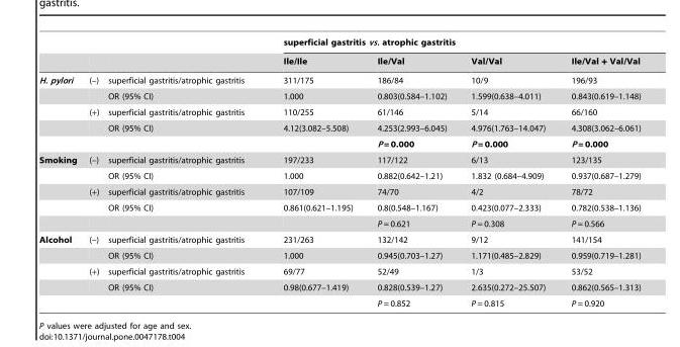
<table><thead><tr><td rowspan="2"></td><td rowspan="2"></td><td rowspan="2"></td><td colspan="4">superficial gastritis vs. atrophic gastritis</td></tr><tr><td>Ile/Ile</td><td>Ile/Val</td><td>Val/Val</td><td>Ile/Val + Val/Val</td></tr></thead><tbody><tr><td rowspan="5">H. pylori</td><td>(–)</td><td>superficial gastritis/atrophic gastritis</td><td>311/175</td><td>186/84</td><td>10/9</td><td>196/93</td></tr><tr><td></td><td>OR (95% CI)</td><td>1.000</td><td>0.803(0.584–1.102)</td><td>1.599(0.638–4.011)</td><td>0.843(0.619–1.148)</td></tr><tr><td>(+)</td><td>superficial gastritis/atrophic gastritis</td><td>110/255</td><td>61/146</td><td>5/14</td><td>66/160</td></tr><tr><td></td><td>OR (95% CI)</td><td>4.12(3.082–5.508)</td><td>4.253(2.993–6.045)</td><td>4.976(1.763–14.047)</td><td>4.308(3.062–6.061)</td></tr><tr><td></td><td></td><td></td><td>P = 0.000</td><td>P = 0.000</td><td>P = 0.000</td></tr><tr><td rowspan="5">Smoking</td><td>(–)</td><td>superficial gastritis/atrophic gastritis</td><td>197/233</td><td>117/122</td><td>6/13</td><td>123/135</td></tr><tr><td></td><td>OR (95% CI)</td><td>1.000</td><td>0.882(0.642–1.21)</td><td>1.832 (0.684–4.909)</td><td>0.937(0.687–1.279)</td></tr><tr><td>(+)</td><td>superficial gastritis/atrophic gastritis</td><td>107/109</td><td>74/70</td><td>4/2</td><td>78/72</td></tr><tr><td></td><td>OR (95% CI)</td><td>0.861(0.621–1.195)</td><td>0.8(0.548–1.167)</td><td>0.423(0.077–2.333)</td><td>0.782(0.538–1.136)</td></tr><tr><td></td><td></td><td></td><td>P = 0.621</td><td>P = 0.308</td><td>P = 0.566</td></tr><tr><td rowspan="5">Alcohol</td><td>(–)</td><td>superficial gastritis/atrophic gastritis</td><td>231/263</td><td>132/142</td><td>9/12</td><td>141/154</td></tr><tr><td></td><td>OR (95% CI)</td><td>1.000</td><td>0.945(0.703–1.27)</td><td>1.171(0.485–2.829)</td><td>0.959(0.719–1.281)</td></tr><tr><td>(+)</td><td>superficial gastritis/atrophic gastritis</td><td>69/77</td><td>52/49</td><td>1/3</td><td>53/52</td></tr><tr><td></td><td>OR (95% CI)</td><td>0.98(0.677–1.419)</td><td>0.828(0.539–1.27)</td><td>2.635(0.272–25.507)</td><td>0.862(0.565–1.313)</td></tr><tr><td></td><td></td><td></td><td>P = 0.852</td><td>P = 0.815</td><td>P = 0.920</td></tr></tbody></table>